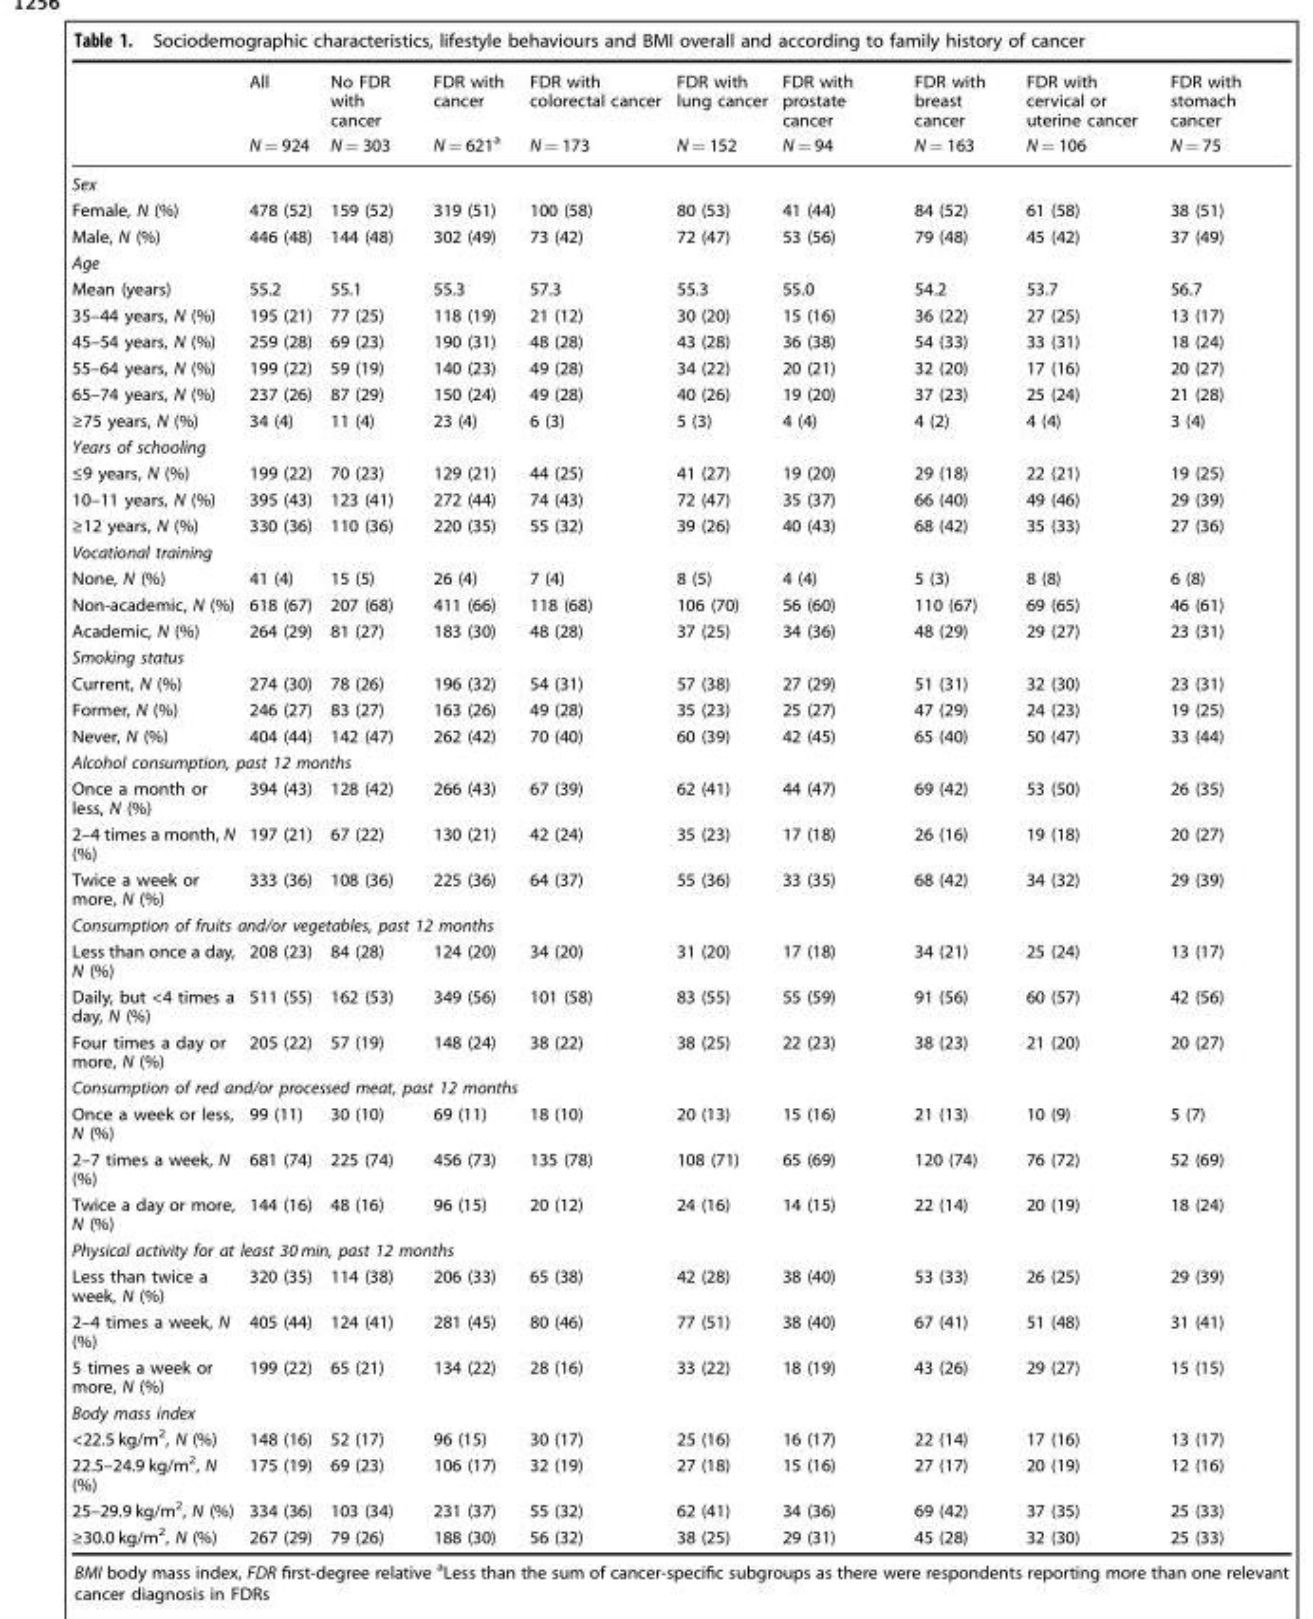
<table><thead><tr><td rowspan="2"></td><td rowspan="2">All N = 924</td><td rowspan="2">No FDR with cancer N = 303</td><td rowspan="2">FDR with cancer N = 621<sup>a</sup></td><td rowspan="2">FDR with colorectal cancer N = 173</td><td rowspan="2">FDR with lung cancer N = 152</td><td rowspan="2">FDR with prostate cancer N = 94</td><td rowspan="2">FDR with breast cancer N = 163</td><td rowspan="2">FDR with cervical or uterine cancer N = 106</td><td rowspan="2">FDR with stomach cancer N = 75</td></tr><tr></tr></thead><tbody><tr><td colspan="10">Sex</td></tr><tr><td>Female, N (%)</td><td>478 (52)</td><td>159 (52)</td><td>319 (51)</td><td>100 (58)</td><td>80 (53)</td><td>41 (44)</td><td>84 (52)</td><td>61 (58)</td><td>38 (51)</td></tr><tr><td>Male, N (%)</td><td>446 (48)</td><td>144 (48)</td><td>302 (49)</td><td>73 (42)</td><td>72 (47)</td><td>53 (56)</td><td>79 (48)</td><td>45 (42)</td><td>37 (49)</td></tr><tr><td colspan="10">Age</td></tr><tr><td>Mean (years)</td><td>55.2</td><td>55.1</td><td>55.3</td><td>57.3</td><td>55.3</td><td>55.0</td><td>54.2</td><td>53.7</td><td>56.7</td></tr><tr><td>35–44 years, N (%)</td><td>195 (21)</td><td>77 (25)</td><td>118 (19)</td><td>21 (12)</td><td>30 (20)</td><td>15 (16)</td><td>36 (22)</td><td>27 (25)</td><td>13 (17)</td></tr><tr><td>45–54 years, N (%)</td><td>259 (28)</td><td>69 (23)</td><td>190 (31)</td><td>48 (28)</td><td>43 (28)</td><td>36 (38)</td><td>54 (33)</td><td>33 (31)</td><td>18 (24)</td></tr><tr><td>55–64 years, N (%)</td><td>199 (22)</td><td>59 (19)</td><td>140 (23)</td><td>49 (28)</td><td>34 (22)</td><td>20 (21)</td><td>32 (20)</td><td>17 (16)</td><td>20 (27)</td></tr><tr><td>65–74 years, N (%)</td><td>237 (26)</td><td>87 (29)</td><td>150 (24)</td><td>49 (28)</td><td>40 (26)</td><td>19 (20)</td><td>37 (23)</td><td>25 (24)</td><td>21 (28)</td></tr><tr><td>≥75 years, N (%)</td><td>34 (4)</td><td>11 (4)</td><td>23 (4)</td><td>6 (3)</td><td>5 (3)</td><td>4 (4)</td><td>4 (2)</td><td>4 (4)</td><td>3 (4)</td></tr><tr><td colspan="10">Years of schooling</td></tr><tr><td>≤9 years, N (%)</td><td>199 (22)</td><td>70 (23)</td><td>129 (21)</td><td>44 (25)</td><td>41 (27)</td><td>19 (20)</td><td>29 (18)</td><td>22 (21)</td><td>19 (25)</td></tr><tr><td>10–11 years, N (%)</td><td>395 (43)</td><td>123 (41)</td><td>272 (44)</td><td>74 (43)</td><td>72 (47)</td><td>35 (37)</td><td>66 (40)</td><td>49 (46)</td><td>29 (39)</td></tr><tr><td>≥12 years, N (%)</td><td>330 (36)</td><td>110 (36)</td><td>220 (35)</td><td>55 (32)</td><td>39 (26)</td><td>40 (43)</td><td>68 (42)</td><td>35 (33)</td><td>27 (36)</td></tr><tr><td colspan="10">Vocational training</td></tr><tr><td>None, N (%)</td><td>41 (4)</td><td>15 (5)</td><td>26 (4)</td><td>7 (4)</td><td>8 (5)</td><td>4 (4)</td><td>5 (3)</td><td>8 (8)</td><td>6 (8)</td></tr><tr><td>Non-academic, N (%)</td><td>618 (67)</td><td>207 (68)</td><td>411 (66)</td><td>118 (68)</td><td>106 (70)</td><td>56 (60)</td><td>110 (67)</td><td>69 (65)</td><td>46 (61)</td></tr><tr><td>Academic, N (%)</td><td>264 (29)</td><td>81 (27)</td><td>183 (30)</td><td>48 (28)</td><td>37 (25)</td><td>34 (36)</td><td>48 (29)</td><td>29 (27)</td><td>23 (31)</td></tr><tr><td colspan="10">Smoking status</td></tr><tr><td>Current, N (%)</td><td>274 (30)</td><td>78 (26)</td><td>196 (32)</td><td>54 (31)</td><td>57 (38)</td><td>27 (29)</td><td>51 (31)</td><td>32 (30)</td><td>23 (31)</td></tr><tr><td>Former, N (%)</td><td>246 (27)</td><td>83 (27)</td><td>163 (26)</td><td>49 (28)</td><td>35 (23)</td><td>25 (27)</td><td>47 (29)</td><td>24 (23)</td><td>19 (25)</td></tr><tr><td>Never, N (%)</td><td>404 (44)</td><td>142 (47)</td><td>262 (42)</td><td>70 (40)</td><td>60 (39)</td><td>42 (45)</td><td>65 (40)</td><td>50 (47)</td><td>33 (44)</td></tr><tr><td colspan="10">Alcohol consumption, past 12 months</td></tr><tr><td>Once a month or less, N (%)</td><td>394 (43)</td><td>128 (42)</td><td>266 (43)</td><td>67 (39)</td><td>62 (41)</td><td>44 (47)</td><td>69 (42)</td><td>53 (50)</td><td>26 (35)</td></tr><tr><td>2–4 times a month, N (%)</td><td>197 (21)</td><td>67 (22)</td><td>130 (21)</td><td>42 (24)</td><td>35 (23)</td><td>17 (18)</td><td>26 (16)</td><td>19 (18)</td><td>20 (27)</td></tr><tr><td>Twice a week or more, N (%)</td><td>333 (36)</td><td>108 (36)</td><td>225 (36)</td><td>64 (37)</td><td>55 (36)</td><td>33 (35)</td><td>68 (42)</td><td>34 (32)</td><td>29 (39)</td></tr><tr><td colspan="10">Consumption of fruits and/or vegetables, past 12 months</td></tr><tr><td>Less than once a day, N (%)</td><td>208 (23)</td><td>84 (28)</td><td>124 (20)</td><td>34 (20)</td><td>31 (20)</td><td>17 (18)</td><td>34 (21)</td><td>25 (24)</td><td>13 (17)</td></tr><tr><td>Daily, but &lt;4 times a day, N (%)</td><td>511 (55)</td><td>162 (53)</td><td>349 (56)</td><td>101 (58)</td><td>83 (55)</td><td>55 (59)</td><td>91 (56)</td><td>60 (57)</td><td>42 (56)</td></tr><tr><td>Four times a day or more, N (%)</td><td>205 (22)</td><td>57 (19)</td><td>148 (24)</td><td>38 (22)</td><td>38 (25)</td><td>22 (23)</td><td>38 (23)</td><td>21 (20)</td><td>20 (27)</td></tr><tr><td colspan="10">Consumption of red and/or processed meat, past 12 months</td></tr><tr><td>Once a week or less, N (%)</td><td>99 (11)</td><td>30 (10)</td><td>69 (11)</td><td>18 (10)</td><td>20 (13)</td><td>15 (16)</td><td>21 (13)</td><td>10 (9)</td><td>5 (7)</td></tr><tr><td>2–7 times a week, N (%)</td><td>681 (74)</td><td>225 (74)</td><td>456 (73)</td><td>135 (78)</td><td>108 (71)</td><td>65 (69)</td><td>120 (74)</td><td>76 (72)</td><td>52 (69)</td></tr><tr><td>Twice a day or more, N (%)</td><td>144 (16)</td><td>48 (16)</td><td>96 (15)</td><td>20 (12)</td><td>24 (16)</td><td>14 (15)</td><td>22 (14)</td><td>20 (19)</td><td>18 (24)</td></tr><tr><td colspan="10">Physical activity for at least 30 min, past 12 months</td></tr><tr><td>Less than twice a week, N (%)</td><td>320 (35)</td><td>114 (38)</td><td>206 (33)</td><td>65 (38)</td><td>42 (28)</td><td>38 (40)</td><td>53 (33)</td><td>26 (25)</td><td>29 (39)</td></tr><tr><td>2–4 times a week, N (%)</td><td>405 (44)</td><td>124 (41)</td><td>281 (45)</td><td>80 (46)</td><td>77 (51)</td><td>38 (40)</td><td>67 (41)</td><td>51 (48)</td><td>31 (41)</td></tr><tr><td>5 times a week or more, N (%)</td><td>199 (22)</td><td>65 (21)</td><td>134 (22)</td><td>28 (16)</td><td>33 (22)</td><td>18 (19)</td><td>43 (26)</td><td>29 (27)</td><td>15 (15)</td></tr><tr><td colspan="10">Body mass index</td></tr><tr><td>&lt;22.5 kg/m<sup>2</sup>, N (%)</td><td>148 (16)</td><td>52 (17)</td><td>96 (15)</td><td>30 (17)</td><td>25 (16)</td><td>16 (17)</td><td>22 (14)</td><td>17 (16)</td><td>13 (17)</td></tr><tr><td>22.5–24.9 kg/m<sup>2</sup>, N (%)</td><td>175 (19)</td><td>69 (23)</td><td>106 (17)</td><td>32 (19)</td><td>27 (18)</td><td>15 (16)</td><td>27 (17)</td><td>20 (19)</td><td>12 (16)</td></tr><tr><td>25–29.9 kg/m<sup>2</sup>, N (%)</td><td>334 (36)</td><td>103 (34)</td><td>231 (37)</td><td>55 (32)</td><td>62 (41)</td><td>34 (36)</td><td>69 (42)</td><td>37 (35)</td><td>25 (33)</td></tr><tr><td>≥30.0 kg/m<sup>2</sup>, N (%)</td><td>267 (29)</td><td>79 (26)</td><td>188 (30)</td><td>56 (32)</td><td>38 (25)</td><td>29 (31)</td><td>45 (28)</td><td>32 (30)</td><td>25 (33)</td></tr></tbody></table>